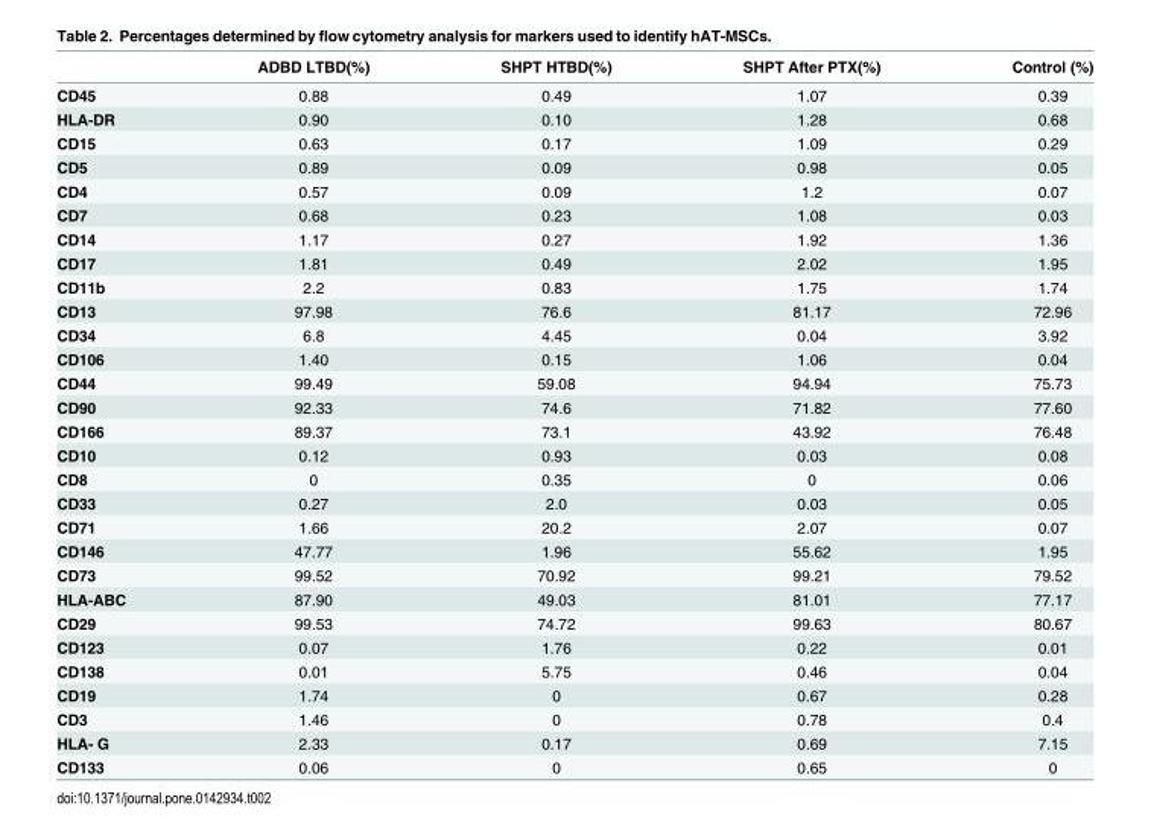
<table><thead><tr><td></td><td>ADBD LTBD(%)</td><td>SHPT HTBD(%)</td><td>SHPT After PTX(%)</td><td>Control (%)</td></tr></thead><tbody><tr><td>CD45</td><td>0.88</td><td>0.49</td><td>1.07</td><td>0.39</td></tr><tr><td>HLA-DR</td><td>0.90</td><td>0.10</td><td>1.28</td><td>0.68</td></tr><tr><td>CD15</td><td>0.63</td><td>0.17</td><td>1.09</td><td>0.29</td></tr><tr><td>CD5</td><td>0.89</td><td>0.09</td><td>0.98</td><td>0.05</td></tr><tr><td>CD4</td><td>0.57</td><td>0.09</td><td>1.2</td><td>0.07</td></tr><tr><td>CD7</td><td>0.68</td><td>0.23</td><td>1.08</td><td>0.03</td></tr><tr><td>CD14</td><td>1.17</td><td>0.27</td><td>1.92</td><td>1.36</td></tr><tr><td>CD17</td><td>1.81</td><td>0.49</td><td>2.02</td><td>1.95</td></tr><tr><td>CD11b</td><td>2.2</td><td>0.83</td><td>1.75</td><td>1.74</td></tr><tr><td>CD13</td><td>97.98</td><td>76.6</td><td>81.17</td><td>72.96</td></tr><tr><td>CD34</td><td>6.8</td><td>4.45</td><td>0.04</td><td>3.92</td></tr><tr><td>CD106</td><td>1.40</td><td>0.15</td><td>1.06</td><td>0.04</td></tr><tr><td>CD44</td><td>99.49</td><td>59.08</td><td>94.94</td><td>75.73</td></tr><tr><td>CD90</td><td>92.33</td><td>74.6</td><td>71.82</td><td>77.60</td></tr><tr><td>CD166</td><td>89.37</td><td>73.1</td><td>43.92</td><td>76.48</td></tr><tr><td>CD10</td><td>0.12</td><td>0.93</td><td>0.03</td><td>0.08</td></tr><tr><td>CD8</td><td>0</td><td>0.35</td><td>0</td><td>0.06</td></tr><tr><td>CD33</td><td>0.27</td><td>2.0</td><td>0.03</td><td>0.05</td></tr><tr><td>CD71</td><td>1.66</td><td>20.2</td><td>2.07</td><td>0.07</td></tr><tr><td>CD146</td><td>47.77</td><td>1.96</td><td>55.62</td><td>1.95</td></tr><tr><td>CD73</td><td>99.52</td><td>70.92</td><td>99.21</td><td>79.52</td></tr><tr><td>HLA-ABC</td><td>87.90</td><td>49.03</td><td>81.01</td><td>77.17</td></tr><tr><td>CD29</td><td>99.53</td><td>74.72</td><td>99.63</td><td>80.67</td></tr><tr><td>CD123</td><td>0.07</td><td>1.76</td><td>0.22</td><td>0.01</td></tr><tr><td>CD138</td><td>0.01</td><td>5.75</td><td>0.46</td><td>0.04</td></tr><tr><td>CD19</td><td>1.74</td><td>0</td><td>0.67</td><td>0.28</td></tr><tr><td>CD3</td><td>1.46</td><td>0</td><td>0.78</td><td>0.4</td></tr><tr><td>HLA- G</td><td>2.33</td><td>0.17</td><td>0.69</td><td>7.15</td></tr><tr><td>CD133</td><td>0.06</td><td>0</td><td>0.65</td><td>0</td></tr></tbody></table>